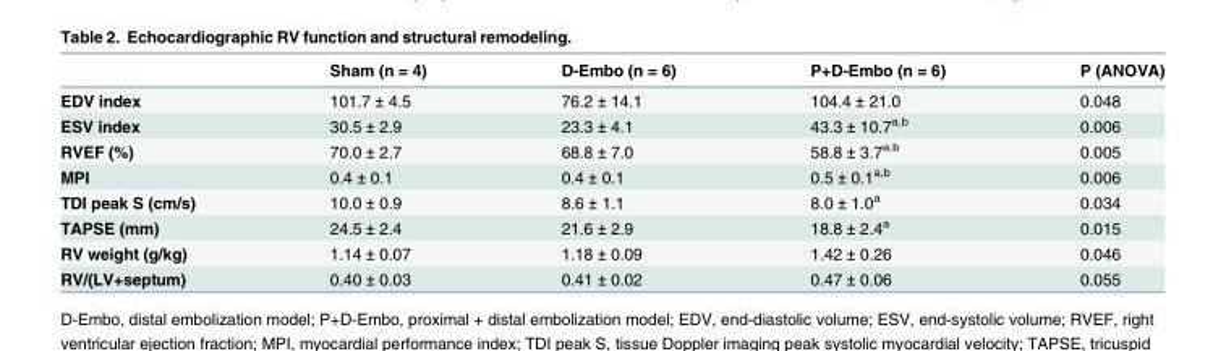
<table><thead><tr><td></td><td>Sham (n = 4)</td><td>D-Embo (n = 6)</td><td>P+D-Embo (n = 6)</td><td>P (ANOVA)</td></tr></thead><tbody><tr><td>EDV index</td><td>101.7 ± 4.5</td><td>76.2 ± 14.1</td><td>104.4 ± 21.0</td><td>0.048</td></tr><tr><td>ESV index</td><td>30.5 ± 2.9</td><td>23.3 ± 4.1</td><td>43.3 ± 10.7<sup>a,b</sup></td><td>0.006</td></tr><tr><td>RVEF (%)</td><td>70.0 ± 2.7</td><td>68.8 ± 7.0</td><td>58.8 ± 3.7<sup>a,b</sup></td><td>0.005</td></tr><tr><td>MPI</td><td>0.4 ± 0.1</td><td>0.4 ± 0.1</td><td>0.5 ± 0.1<sup>a,b</sup></td><td>0.006</td></tr><tr><td>TDI peak S (cm/s)</td><td>10.0 ± 0.9</td><td>8.6 ± 1.1</td><td>8.0 ± 1.0<sup>a</sup></td><td>0.034</td></tr><tr><td>TAPSE (mm)</td><td>24.5 ± 2.4</td><td>21.6 ± 2.9</td><td>18.8 ± 2.4<sup>a</sup></td><td>0.015</td></tr><tr><td>RV weight (g/kg)</td><td>1.14 ± 0.07</td><td>1.18 ± 0.09</td><td>1.42 ± 0.26</td><td>0.046</td></tr><tr><td>RV/(LV+septum)</td><td>0.40 ± 0.03</td><td>0.41 ± 0.02</td><td>0.47 ± 0.06</td><td>0.055</td></tr></tbody></table>